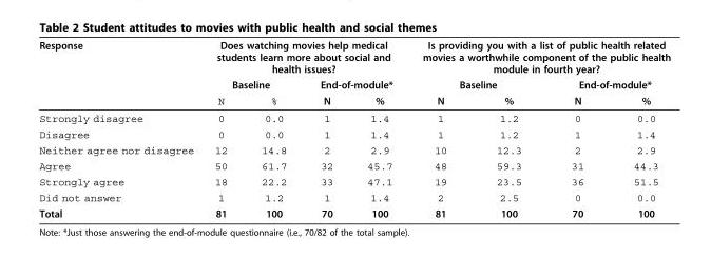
<table><thead><tr><td rowspan="3">Response</td><td colspan="4">Does watching movies help medical students learn more about social and health issues?</td><td colspan="4">Is providing you with a list of public health related movies a worthwhile component of the public health module in fourth year?</td></tr><tr><td colspan="2">Baseline</td><td colspan="2">End-of-module*</td><td colspan="2">Baseline</td><td colspan="2">End-of-module*</td></tr><tr><td>N</td><td>%</td><td>N</td><td>%</td><td>N</td><td>%</td><td>N</td><td>%</td></tr></thead><tbody><tr><td>Strongly disagree</td><td>0</td><td>0.0</td><td>1</td><td>1.4</td><td>1</td><td>1.2</td><td>0</td><td>0.0</td></tr><tr><td>Disagree</td><td>0</td><td>0.0</td><td>1</td><td>1.4</td><td>1</td><td>1.2</td><td>1</td><td>1.4</td></tr><tr><td>Neither agree nor disagree</td><td>12</td><td>14.8</td><td>2</td><td>2.9</td><td>10</td><td>12.3</td><td>2</td><td>2.9</td></tr><tr><td>Agree</td><td>50</td><td>61.7</td><td>32</td><td>45.7</td><td>48</td><td>59.3</td><td>31</td><td>44.3</td></tr><tr><td>Strongly agree</td><td>18</td><td>22.2</td><td>33</td><td>47.1</td><td>19</td><td>23.5</td><td>36</td><td>51.5</td></tr><tr><td>Did not answer</td><td>1</td><td>1.2</td><td>1</td><td>1.4</td><td>2</td><td>2.5</td><td>0</td><td>0.0</td></tr><tr><td>Total</td><td>81</td><td>100</td><td>70</td><td>100</td><td>81</td><td>100</td><td>70</td><td>100</td></tr></tbody></table>